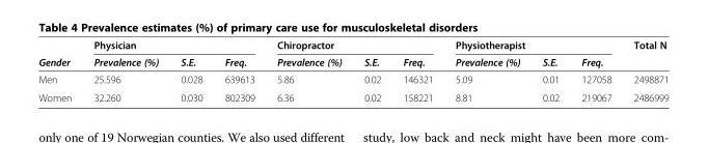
<table><thead><tr><td rowspan="2">Gender</td><td colspan="3">Physician</td><td colspan="3">Chiropractor</td><td colspan="3">Physiotherapist</td><td rowspan="2">Total N</td></tr><tr><td>Prevalence (%)</td><td>S.E.</td><td>Freq.</td><td>Prevalence (%)</td><td>S.E.</td><td>Freq.</td><td>Prevalence (%)</td><td>S.E.</td><td>Freq.</td></tr></thead><tbody><tr><td>Men</td><td>25.596</td><td>0.028</td><td>639613</td><td>5.86</td><td>0.02</td><td>146321</td><td>5.09</td><td>0.01</td><td>127058</td><td>2498871</td></tr><tr><td>Women</td><td>32.260</td><td>0.030</td><td>802309</td><td>6.36</td><td>0.02</td><td>158221</td><td>8.81</td><td>0.02</td><td>219067</td><td>2486999</td></tr></tbody></table>